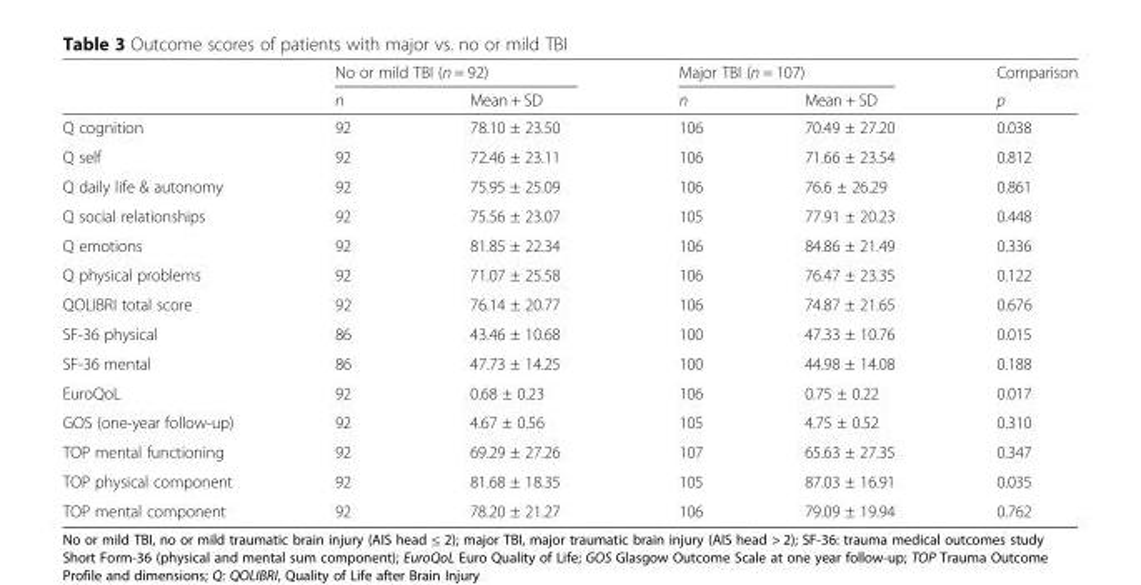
<table><thead><tr><td rowspan="2"></td><td colspan="2">No or mild TBI (n = 92)</td><td colspan="2">Major TBI (n = 107)</td><td rowspan="2">Comparison p</td></tr><tr><td>n</td><td>Mean + SD</td><td>n</td><td>Mean + SD</td></tr></thead><tbody><tr><td>Q cognition</td><td>92</td><td>78.10 ± 23.50</td><td>106</td><td>70.49 ± 27.20</td><td>0.038</td></tr><tr><td>Q self</td><td>92</td><td>72.46 ± 23.11</td><td>106</td><td>71.66 ± 23.54</td><td>0.812</td></tr><tr><td>Q daily life &amp; autonomy</td><td>92</td><td>75.95 ± 25.09</td><td>106</td><td>76.6 ± 26.29</td><td>0.861</td></tr><tr><td>Q social relationships</td><td>92</td><td>75.56 ± 23.07</td><td>105</td><td>77.91 ± 20.23</td><td>0.448</td></tr><tr><td>Q emotions</td><td>92</td><td>81.85 ± 22.34</td><td>106</td><td>84.86 ± 21.49</td><td>0.336</td></tr><tr><td>Q physical problems</td><td>92</td><td>71.07 ± 25.58</td><td>106</td><td>76.47 ± 23.35</td><td>0.122</td></tr><tr><td>QOLIBRI total score</td><td>92</td><td>76.14 ± 20.77</td><td>106</td><td>74.87 ± 21.65</td><td>0.676</td></tr><tr><td>SF-36 physical</td><td>86</td><td>43.46 ± 10.68</td><td>100</td><td>47.33 ± 10.76</td><td>0.015</td></tr><tr><td>SF-36 mental</td><td>86</td><td>47.73 ± 14.25</td><td>100</td><td>44.98 ± 14.08</td><td>0.188</td></tr><tr><td>EuroQoL</td><td>92</td><td>0.68 ± 0.23</td><td>106</td><td>0.75 ± 0.22</td><td>0.017</td></tr><tr><td>GOS (one-year follow-up)</td><td>92</td><td>4.67 ± 0.56</td><td>105</td><td>4.75 ± 0.52</td><td>0.310</td></tr><tr><td>TOP mental functioning</td><td>92</td><td>69.29 ± 27.26</td><td>107</td><td>65.63 ± 27.35</td><td>0.347</td></tr><tr><td>TOP physical component</td><td>92</td><td>81.68 ± 18.35</td><td>105</td><td>87.03 ± 16.91</td><td>0.035</td></tr><tr><td>TOP mental component</td><td>92</td><td>78.20 ± 21.27</td><td>106</td><td>79.09 ± 19.94</td><td>0.762</td></tr></tbody></table>